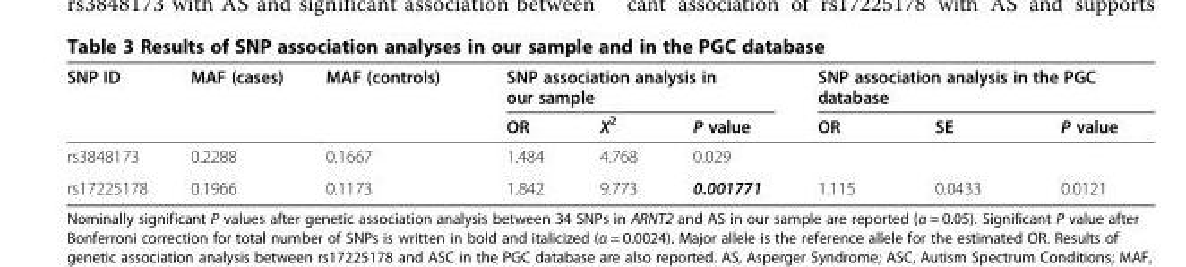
<table><thead><tr><td rowspan="2">SNP ID</td><td rowspan="2">MAF (cases)</td><td rowspan="2">MAF (controls)</td><td colspan="3">SNP association analysis in our sample</td><td colspan="3">SNP association analysis in the PGC database</td></tr><tr><td>OR</td><td>X<sup>2</sup></td><td>P value</td><td>OR</td><td>SE</td><td>P value</td></tr></thead><tbody><tr><td>rs3848173</td><td>0.2288</td><td>0.1667</td><td>1.484</td><td>4.768</td><td>0.029</td><td></td><td></td><td></td></tr><tr><td>rs17225178</td><td>0.1966</td><td>0.1173</td><td>1.842</td><td>9.773</td><td>0.001771</td><td>1.115</td><td>0.0433</td><td>0.0121</td></tr></tbody></table>